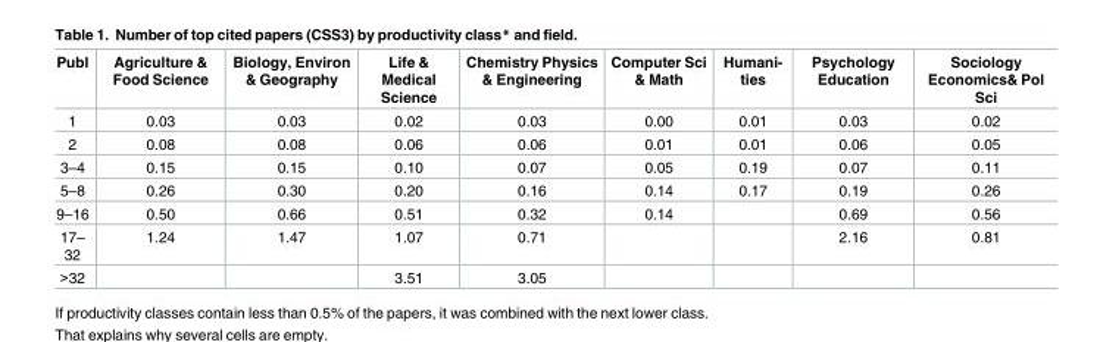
<table><thead><tr><td>Publ</td><td>Agriculture &amp; Food Science</td><td>Biology, Environ &amp; Geography</td><td>Life &amp; Medical Science</td><td>Chemistry Physics &amp; Engineering</td><td>Computer Sci &amp; Math</td><td>Humani- ties</td><td>Psychology Education</td><td>Sociology Economics&amp; Pol Sci</td></tr></thead><tbody><tr><td>1</td><td>0.03</td><td>0.03</td><td>0.02</td><td>0.03</td><td>0.00</td><td>0.01</td><td>0.03</td><td>0.02</td></tr><tr><td>2</td><td>0.08</td><td>0.08</td><td>0.06</td><td>0.06</td><td>0.01</td><td>0.01</td><td>0.06</td><td>0.05</td></tr><tr><td>3–4</td><td>0.15</td><td>0.15</td><td>0.10</td><td>0.07</td><td>0.05</td><td>0.19</td><td>0.07</td><td>0.11</td></tr><tr><td>5–8</td><td>0.26</td><td>0.30</td><td>0.20</td><td>0.16</td><td>0.14</td><td>0.17</td><td>0.19</td><td>0.26</td></tr><tr><td>9–16</td><td>0.50</td><td>0.66</td><td>0.51</td><td>0.32</td><td>0.14</td><td></td><td>0.69</td><td>0.56</td></tr><tr><td>17– 32</td><td>1.24</td><td>1.47</td><td>1.07</td><td>0.71</td><td></td><td></td><td>2.16</td><td>0.81</td></tr><tr><td>&gt;32</td><td></td><td></td><td>3.51</td><td>3.05</td><td></td><td></td><td></td><td></td></tr></tbody></table>